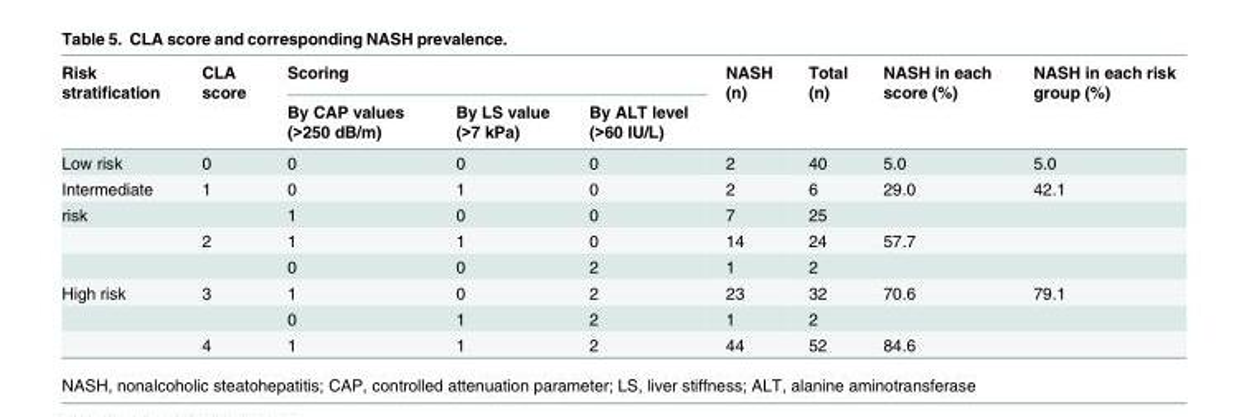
<table><thead><tr><td rowspan="2">Risk stratification</td><td rowspan="2">CLA score</td><td colspan="3">Scoring</td><td rowspan="2">NASH (n)</td><td rowspan="2">Total (n)</td><td rowspan="2">NASH in each score (%)</td><td rowspan="2">NASH in each risk group (%)</td></tr><tr><td>By CAP values (&gt;250 dB/m)</td><td>By LS value (&gt;7 kPa)</td><td>By ALT level (&gt;60 IU/L)</td></tr></thead><tbody><tr><td>Low risk</td><td>0</td><td>0</td><td>0</td><td>0</td><td>2</td><td>40</td><td>5.0</td><td>5.0</td></tr><tr><td>Intermediate</td><td>1</td><td>0</td><td>1</td><td>0</td><td>2</td><td>6</td><td>29.0</td><td>42.1</td></tr><tr><td rowspan="3">risk</td><td></td><td>1</td><td>0</td><td>0</td><td>7</td><td>25</td><td></td><td></td></tr><tr><td>2</td><td>1</td><td>1</td><td>0</td><td>14</td><td>24</td><td>57.7</td><td></td></tr><tr><td></td><td>0</td><td>0</td><td>2</td><td>1</td><td>2</td><td></td><td></td></tr><tr><td rowspan="3">High risk</td><td>3</td><td>1</td><td>0</td><td>2</td><td>23</td><td>32</td><td>70.6</td><td>79.1</td></tr><tr><td></td><td>0</td><td>1</td><td>2</td><td>1</td><td>2</td><td></td><td></td></tr><tr><td>4</td><td>1</td><td>1</td><td>2</td><td>44</td><td>52</td><td>84.6</td><td></td></tr></tbody></table>